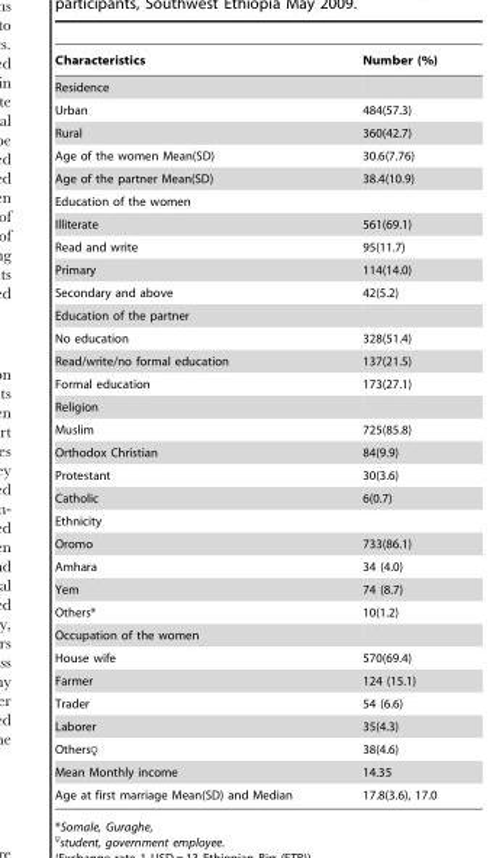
<table><thead><tr><td>Characteristics</td><td>Number (%)</td></tr></thead><tbody><tr><td colspan="2">Residence</td></tr><tr><td>Urban</td><td>484(57.3)</td></tr><tr><td>Rural</td><td>360(42.7)</td></tr><tr><td>Age of the women Mean(SD)</td><td>30.6(7.76)</td></tr><tr><td>Age of the partner Mean(SD)</td><td>38.4(10.9)</td></tr><tr><td colspan="2">Education of the women</td></tr><tr><td>Illiterate</td><td>561(69.1)</td></tr><tr><td>Read and write</td><td>95(11.7)</td></tr><tr><td>Primary</td><td>114(14.0)</td></tr><tr><td>Secondary and above</td><td>42(5.2)</td></tr><tr><td colspan="2">Education of the partner</td></tr><tr><td>No education</td><td>328(51.4)</td></tr><tr><td>Read/write/no formal education</td><td>137(21.5)</td></tr><tr><td>Formal education</td><td>173(27.1)</td></tr><tr><td colspan="2">Religion</td></tr><tr><td>Muslim</td><td>725(85.8)</td></tr><tr><td>Orthodox Christian</td><td>84(9.9)</td></tr><tr><td>Protestant</td><td>30(3.6)</td></tr><tr><td>Catholic</td><td>6(0.7)</td></tr><tr><td colspan="2">Ethnicity</td></tr><tr><td>Oromo</td><td>733(86.1)</td></tr><tr><td>Amhara</td><td>34 (4.0)</td></tr><tr><td>Yem</td><td>74 (8.7)</td></tr><tr><td>Others*</td><td>10(1.2)</td></tr><tr><td colspan="2">Occupation of the women</td></tr><tr><td>House wife</td><td>570(69.4)</td></tr><tr><td>Farmer</td><td>124 (15.1)</td></tr><tr><td>Trader</td><td>54 (6.6)</td></tr><tr><td>Laborer</td><td>35(4.3)</td></tr><tr><td>Others♀</td><td>38(4.6)</td></tr><tr><td>Mean Monthly income</td><td>14.35</td></tr><tr><td>Age at first marriage Mean(SD) and Median</td><td>17.8(3.6), 17.0</td></tr></tbody></table>